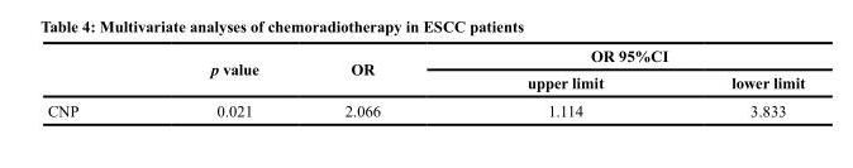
<table><thead><tr><td rowspan="2"></td><td rowspan="2">p value</td><td rowspan="2">OR</td><td colspan="2">OR 95%CI</td></tr><tr><td>upper limit</td><td>lower limit</td></tr></thead><tbody><tr><td>CNP</td><td>0.021</td><td>2.066</td><td>1.114</td><td>3.833</td></tr></tbody></table>